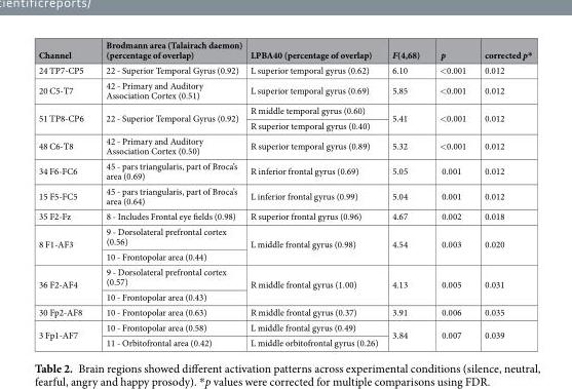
<table><thead><tr><td>Channel</td><td>Brodmann area (Talairach daemon) (percentage of overlap)</td><td>LPBA40 (percentage of overlap)</td><td>F(4,68)</td><td>p</td><td>corrected p*</td></tr></thead><tbody><tr><td>24 TP7-CP5</td><td>22 - Superior Temporal Gyrus (0.92)</td><td>L superior temporal gyrus (0.62)</td><td>6.10</td><td>&lt;0.001</td><td>0.012</td></tr><tr><td>20 C5-T7</td><td>42 - Primary and Auditory Association Cortex (0.51)</td><td>L superior temporal gyrus (0.69)</td><td>5.85</td><td>&lt;0.001</td><td>0.012</td></tr><tr><td rowspan="2">51 TP8-CP6</td><td rowspan="2">22 - Superior Temporal Gyrus (0.92)</td><td>R middle temporal gyrus (0.60)</td><td rowspan="2">5.41</td><td rowspan="2">&lt;0.001</td><td rowspan="2">0.012</td></tr><tr><td>R superior temporal gyrus (0.40)</td></tr><tr><td>48 C6-T8</td><td>42 - Primary and Auditory Association Cortex (0.50)</td><td>R superior temporal gyrus (0.89)</td><td>5.32</td><td>&lt;0.001</td><td>0.012</td></tr><tr><td>34 F6-FC6</td><td>45 - pars triangularis, part of Broca’s area (0.69)</td><td>R inferior frontal gyrus (0.69)</td><td>5.05</td><td>0.001</td><td>0.012</td></tr><tr><td>15 F5-FC5</td><td>45 - pars triangularis, part of Broca’s area (0.64)</td><td>L inferior frontal gyrus (0.99)</td><td>5.04</td><td>0.001</td><td>0.012</td></tr><tr><td>35 F2-Fz</td><td>8 - Includes Frontal eye fields (0.98)</td><td>R superior frontal gyrus (0.96)</td><td>4.67</td><td>0.002</td><td>0.018</td></tr><tr><td rowspan="2">8 F1-AF3</td><td>9 - Dorsolateral prefrontal cortex (0.56)</td><td rowspan="2">L middle frontal gyrus (0.98)</td><td rowspan="2">4.54</td><td rowspan="2">0.003</td><td rowspan="2">0.020</td></tr><tr><td>10 - Frontopolar area (0.44)</td></tr><tr><td rowspan="2">36 F2-AF4</td><td>9 - Dorsolateral prefrontal cortex (0.57)</td><td rowspan="2">R middle frontal gyrus (1.00)</td><td rowspan="2">4.13</td><td rowspan="2">0.005</td><td rowspan="2">0.031</td></tr><tr><td>10 - Frontopolar area (0.43)</td></tr><tr><td>30 Fp2-AF8</td><td>10 - Frontopolar area (0.63)</td><td>R middle frontal gyrus (0.37)</td><td>3.91</td><td>0.006</td><td>0.035</td></tr><tr><td rowspan="2">3 Fp1-AF7</td><td>10 - Frontopolar area (0.58)</td><td>L middle frontal gyrus (0.49)</td><td rowspan="2">3.84</td><td rowspan="2">0.007</td><td rowspan="2">0.039</td></tr><tr><td>11 - Orbitofrontal area (0.42)</td><td>L middle orbitofrontal gyrus (0.26)</td></tr></tbody></table>